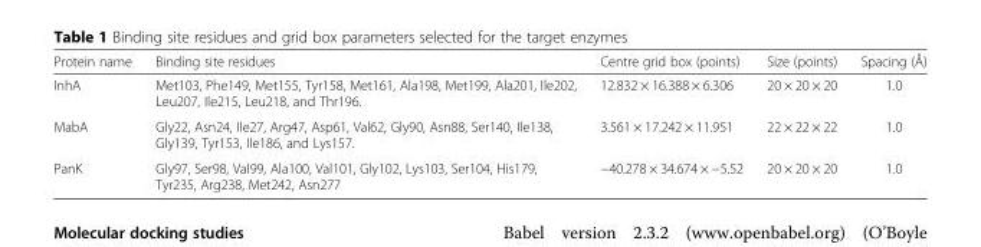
<table><thead><tr><td>Protein name</td><td>Binding site residues</td><td>Centre grid box (points)</td><td>Size (points)</td><td>Spacing (Å)</td></tr></thead><tbody><tr><td>InhA</td><td>Met103, Phe149, Met155, Tyr158, Met161, Ala198, Met199, Ala201, Ile202, Leu207, Ile215, Leu218, and Thr196.</td><td>12.832 × 16.388 × 6.306</td><td>20 × 20 × 20</td><td>1.0</td></tr><tr><td>MabA</td><td>Gly22, Asn24, Ile27, Arg47, Asp61, Val62, Gly90, Asn88, Ser140, Ile138, Gly139, Tyr153, Ile186, and Lys157.</td><td>3.561 × 17.242 × 11.951</td><td>22 × 22 × 22</td><td>1.0</td></tr><tr><td>PanK</td><td>Gly97, Ser98, Val99, Ala100, Val101, Gly102, Lys103, Ser104, His179, Tyr235, Arg238, Met242, Asn277</td><td>−40.278 × 34.674 × −5.52</td><td>20 × 20 × 20</td><td>1.0</td></tr></tbody></table>